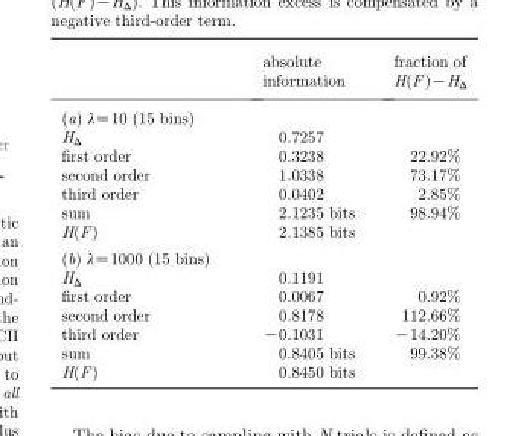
<table><thead><tr><td></td><td>absolute information</td><td>fraction of H(F)−HΔ</td></tr></thead><tbody><tr><td colspan="3">(a) λ=10 (15 bins)</td></tr><tr><td>HΔ</td><td>0.7257</td><td></td></tr><tr><td>first order</td><td>0.3238</td><td>22.92%</td></tr><tr><td>second order</td><td>1.0338</td><td>73.17%</td></tr><tr><td>third order</td><td>0.0402</td><td>2.85%</td></tr><tr><td>sum</td><td>2.1235 bits</td><td>98.94%</td></tr><tr><td>H(F)</td><td>2.1385 bits</td><td></td></tr><tr><td colspan="3">(b) λ=1000 (15 bins)</td></tr><tr><td>HΔ</td><td>0.1191</td><td></td></tr><tr><td>first order</td><td>0.0067</td><td>0.92%</td></tr><tr><td>second order</td><td>0.8178</td><td>112.66%</td></tr><tr><td>third order</td><td>−0.1031</td><td>−14.20%</td></tr><tr><td>sum</td><td>0.8405 bits</td><td>99.38%</td></tr><tr><td>H(F)</td><td>0.8450 bits</td><td></td></tr></tbody></table>